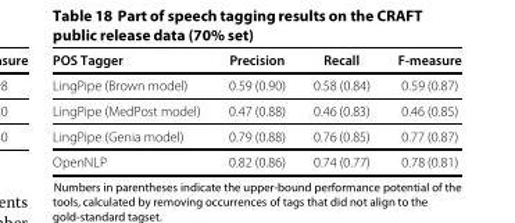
<table><thead><tr><td>POS Tagger</td><td>Precision</td><td>Recall</td><td>F-measure</td></tr></thead><tbody><tr><td>LingPipe (Brown model)</td><td>0.59 (0.90)</td><td>0.58 (0.84)</td><td>0.59 (0.87)</td></tr><tr><td>LingPipe (MedPost model)</td><td>0.47 (0.88)</td><td>0.46 (0.83)</td><td>0.46 (0.85)</td></tr><tr><td>LingPipe (Genia model)</td><td>0.79 (0.88)</td><td>0.76 (0.85)</td><td>0.77 (0.87)</td></tr><tr><td>OpenNLP</td><td>0.82 (0.86)</td><td>0.74 (0.77)</td><td>0.78 (0.81)</td></tr></tbody></table>